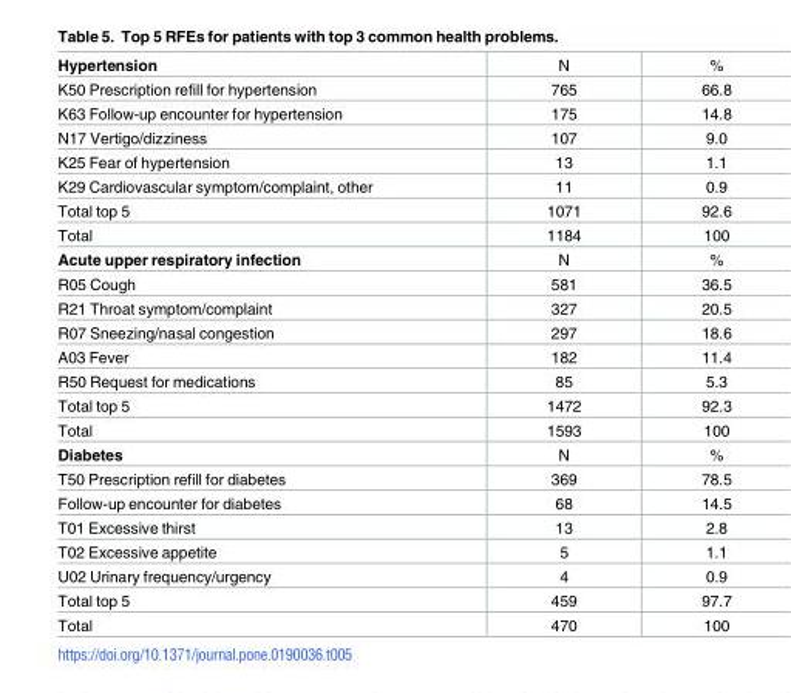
<table><tbody><tr><td>Hypertension</td><td>N</td><td>%</td></tr><tr><td>K50 Prescription refill for hypertension</td><td>765</td><td>66.8</td></tr><tr><td>K63 Follow-up encounter for hypertension</td><td>175</td><td>14.8</td></tr><tr><td>N17 Vertigo/dizziness</td><td>107</td><td>9.0</td></tr><tr><td>K25 Fear of hypertension</td><td>13</td><td>1.1</td></tr><tr><td>K29 Cardiovascular symptom/complaint, other</td><td>11</td><td>0.9</td></tr><tr><td>Total top 5</td><td>1071</td><td>92.6</td></tr><tr><td>Total</td><td>1184</td><td>100</td></tr><tr><td>Acute upper respiratory infection</td><td>N</td><td>%</td></tr><tr><td>R05 Cough</td><td>581</td><td>36.5</td></tr><tr><td>R21 Throat symptom/complaint</td><td>327</td><td>20.5</td></tr><tr><td>R07 Sneezing/nasal congestion</td><td>297</td><td>18.6</td></tr><tr><td>A03 Fever</td><td>182</td><td>11.4</td></tr><tr><td>R50 Request for medications</td><td>85</td><td>5.3</td></tr><tr><td>Total top 5</td><td>1472</td><td>92.3</td></tr><tr><td>Total</td><td>1593</td><td>100</td></tr><tr><td>Diabetes</td><td>N</td><td>%</td></tr><tr><td>T50 Prescription refill for diabetes</td><td>369</td><td>78.5</td></tr><tr><td>Follow-up encounter for diabetes</td><td>68</td><td>14.5</td></tr><tr><td>T01 Excessive thirst</td><td>13</td><td>2.8</td></tr><tr><td>T02 Excessive appetite</td><td>5</td><td>1.1</td></tr><tr><td>U02 Urinary frequency/urgency</td><td>4</td><td>0.9</td></tr><tr><td>Total top 5</td><td>459</td><td>97.7</td></tr><tr><td>Total</td><td>470</td><td>100</td></tr></tbody></table>